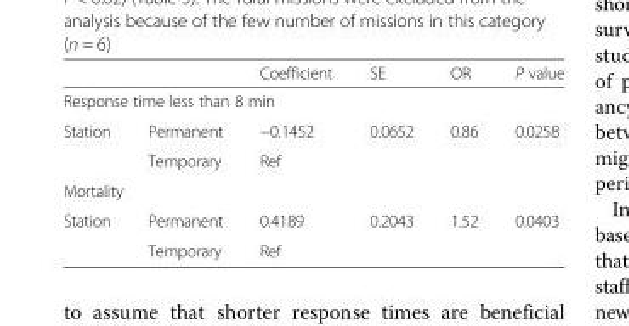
<table><thead><tr><td></td><td></td><td>Coefficient</td><td>SE</td><td>OR</td><td>P value</td></tr></thead><tbody><tr><td colspan="6">Response time less than 8 min</td></tr><tr><td rowspan="2">Station</td><td>Permanent</td><td>−0.1452</td><td>0.0652</td><td>0.86</td><td>0.0258</td></tr><tr><td>Temporary</td><td>Ref</td><td></td><td></td><td></td></tr><tr><td colspan="6">Mortality</td></tr><tr><td rowspan="2">Station</td><td>Permanent</td><td>0.4189</td><td>0.2043</td><td>1.52</td><td>0.0403</td></tr><tr><td>Temporary</td><td>Ref</td><td></td><td></td><td></td></tr></tbody></table>